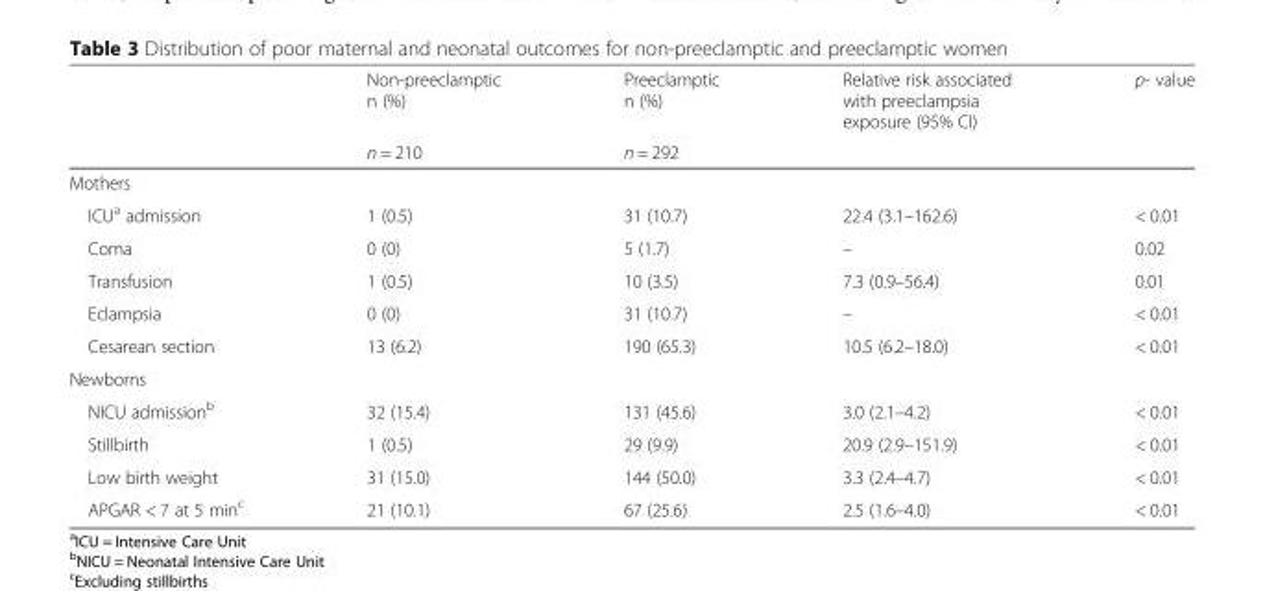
<table><thead><tr><td rowspan="2"></td><td rowspan="2">Non-preeclamptic n (%) n = 210</td><td rowspan="2">Preeclamptic n (%) n = 292</td><td rowspan="2">Relative risk associated with preeclampsia exposure (95% CI)</td><td rowspan="2">p- value</td></tr><tr></tr></thead><tbody><tr><td colspan="5">Mothers</td></tr><tr><td>ICU<sup>a</sup> admission</td><td>1 (0.5)</td><td>31 (10.7)</td><td>22.4 (3.1–162.6)</td><td>&lt; 0.01</td></tr><tr><td>Coma</td><td>0 (0)</td><td>5 (1.7)</td><td>–</td><td>0.02</td></tr><tr><td>Transfusion</td><td>1 (0.5)</td><td>10 (3.5)</td><td>7.3 (0.9–56.4)</td><td>0.01</td></tr><tr><td>Eclampsia</td><td>0 (0)</td><td>31 (10.7)</td><td>–</td><td>&lt; 0.01</td></tr><tr><td>Cesarean section</td><td>13 (6.2)</td><td>190 (65.3)</td><td>10.5 (6.2–18.0)</td><td>&lt; 0.01</td></tr><tr><td colspan="5">Newborns</td></tr><tr><td>NICU admission<sup>b</sup></td><td>32 (15.4)</td><td>131 (45.6)</td><td>3.0 (2.1–4.2)</td><td>&lt; 0.01</td></tr><tr><td>Stillbirth</td><td>1 (0.5)</td><td>29 (9.9)</td><td>20.9 (2.9–151.9)</td><td>&lt; 0.01</td></tr><tr><td>Low birth weight</td><td>31 (15.0)</td><td>144 (50.0)</td><td>3.3 (2.4–4.7)</td><td>&lt; 0.01</td></tr><tr><td>APGAR &lt; 7 at 5 min<sup>c</sup></td><td>21 (10.1)</td><td>67 (25.6)</td><td>2.5 (1.6–4.0)</td><td>&lt; 0.01</td></tr></tbody></table>